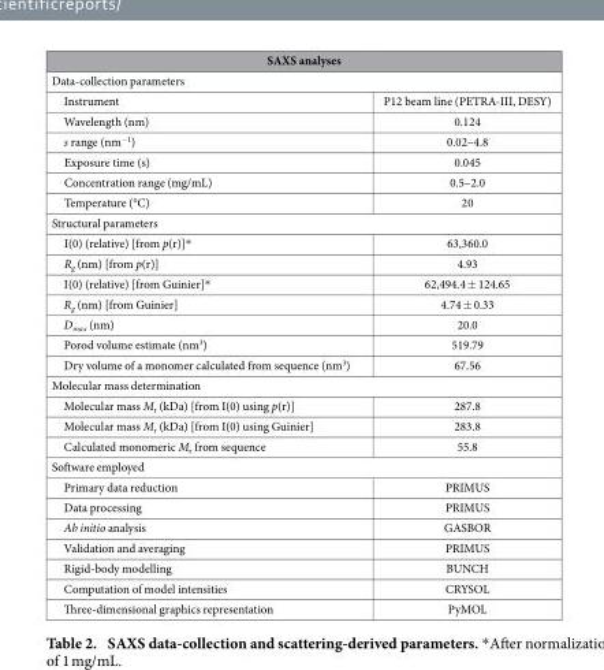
<table><thead><tr><td rowspan="2" colspan="2">SAXS analyses Data-collection parameters</td></tr><tr></tr><tr><td>Instrument</td><td>P12 beam line (PETRA-III, DESY)</td></tr></thead><tbody><tr><td>Wavelength (nm)</td><td>0.124</td></tr><tr><td>s range (nm<sup>−1</sup>)</td><td>0.02–4.8</td></tr><tr><td>Exposure time (s)</td><td>0.045</td></tr><tr><td>Concentration range (mg/mL)</td><td>0.5–2.0</td></tr><tr><td>Temperature (°C)</td><td>20</td></tr><tr><td colspan="2">Structural parameters</td></tr><tr><td>I(0) (relative) [from p(r)]*</td><td>63,360.0</td></tr><tr><td>R<sub>g</sub> (nm) [from p(r)]</td><td>4.93</td></tr><tr><td>I(0) (relative) [from Guinier]*</td><td>62,494.4 ± 124.65</td></tr><tr><td>R<sub>g</sub> (nm) [from Guinier]</td><td>4.74 ± 0.33</td></tr><tr><td>D<sub>max</sub> (nm)</td><td>20.0</td></tr><tr><td>Porod volume estimate (nm<sup>3</sup>)</td><td>519.79</td></tr><tr><td>Dry volume of a monomer calculated from sequence (nm<sup>3</sup>)</td><td>67.56</td></tr><tr><td colspan="2">Molecular mass determination</td></tr><tr><td>Molecular mass M<sub>r</sub> (kDa) [from I(0) using p(r)]</td><td>287.8</td></tr><tr><td>Molecular mass M<sub>r</sub> (kDa) [from I(0) using Guinier]</td><td>283.8</td></tr><tr><td>Calculated monomeric M<sub>r</sub> from sequence</td><td>55.8</td></tr><tr><td colspan="2">Software employed</td></tr><tr><td>Primary data reduction</td><td>PRIMUS</td></tr><tr><td>Data processing</td><td>PRIMUS</td></tr><tr><td>Ab initio analysis</td><td>GASBOR</td></tr><tr><td>Validation and averaging</td><td>PRIMUS</td></tr><tr><td>Rigid-body modelling</td><td>BUNCH</td></tr><tr><td>Computation of model intensities</td><td>CRYSOL</td></tr><tr><td>Three-dimensional graphics representation</td><td>PyMOL</td></tr></tbody></table>